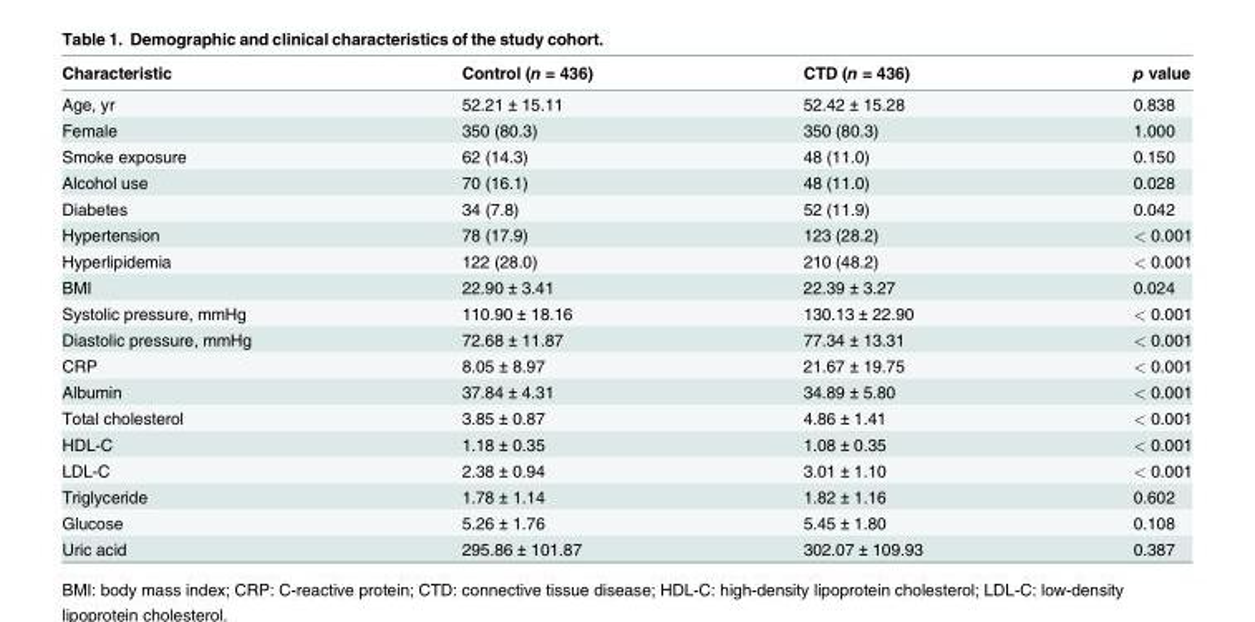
<table><thead><tr><td>Characteristic</td><td>Control (n = 436)</td><td>CTD (n = 436)</td><td>p value</td></tr></thead><tbody><tr><td>Age, yr</td><td>52.21 ± 15.11</td><td>52.42 ± 15.28</td><td>0.838</td></tr><tr><td>Female</td><td>350 (80.3)</td><td>350 (80.3)</td><td>1.000</td></tr><tr><td>Smoke exposure</td><td>62 (14.3)</td><td>48 (11.0)</td><td>0.150</td></tr><tr><td>Alcohol use</td><td>70 (16.1)</td><td>48 (11.0)</td><td>0.028</td></tr><tr><td>Diabetes</td><td>34 (7.8)</td><td>52 (11.9)</td><td>0.042</td></tr><tr><td>Hypertension</td><td>78 (17.9)</td><td>123 (28.2)</td><td>&lt; 0.001</td></tr><tr><td>Hyperlipidemia</td><td>122 (28.0)</td><td>210 (48.2)</td><td>&lt; 0.001</td></tr><tr><td>BMI</td><td>22.90 ± 3.41</td><td>22.39 ± 3.27</td><td>0.024</td></tr><tr><td>Systolic pressure, mmHg</td><td>110.90 ± 18.16</td><td>130.13 ± 22.90</td><td>&lt; 0.001</td></tr><tr><td>Diastolic pressure, mmHg</td><td>72.68 ± 11.87</td><td>77.34 ± 13.31</td><td>&lt; 0.001</td></tr><tr><td>CRP</td><td>8.05 ± 8.97</td><td>21.67 ± 19.75</td><td>&lt; 0.001</td></tr><tr><td>Albumin</td><td>37.84 ± 4.31</td><td>34.89 ± 5.80</td><td>&lt; 0.001</td></tr><tr><td>Total cholesterol</td><td>3.85 ± 0.87</td><td>4.86 ± 1.41</td><td>&lt; 0.001</td></tr><tr><td>HDL-C</td><td>1.18 ± 0.35</td><td>1.08 ± 0.35</td><td>&lt; 0.001</td></tr><tr><td>LDL-C</td><td>2.38 ± 0.94</td><td>3.01 ± 1.10</td><td>&lt; 0.001</td></tr><tr><td>Triglyceride</td><td>1.78 ± 1.14</td><td>1.82 ± 1.16</td><td>0.602</td></tr><tr><td>Glucose</td><td>5.26 ± 1.76</td><td>5.45 ± 1.80</td><td>0.108</td></tr><tr><td>Uric acid</td><td>295.86 ± 101.87</td><td>302.07 ± 109.93</td><td>0.387</td></tr></tbody></table>